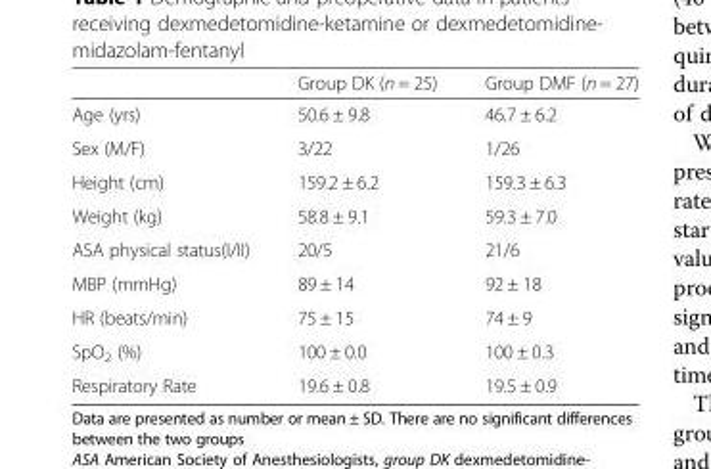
<table><thead><tr><td></td><td>Group DK (n = 25)</td><td>Group DMF (n = 27)</td></tr></thead><tbody><tr><td>Age (yrs)</td><td>50.6 ± 9.8</td><td>46.7 ± 6.2</td></tr><tr><td>Sex (M/F)</td><td>3/22</td><td>1/26</td></tr><tr><td>Height (cm)</td><td>159.2 ± 6.2</td><td>159.3 ± 6.3</td></tr><tr><td>Weight (kg)</td><td>58.8 ± 9.1</td><td>59.3 ± 7.0</td></tr><tr><td>ASA physical status(I/II)</td><td>20/5</td><td>21/6</td></tr><tr><td>MBP (mmHg)</td><td>89 ± 14</td><td>92 ± 18</td></tr><tr><td>HR (beats/min)</td><td>75 ± 15</td><td>74 ± 9</td></tr><tr><td>SpO<sub>2</sub> (%)</td><td>100 ± 0.0</td><td>100 ± 0.3</td></tr><tr><td>Respiratory Rate</td><td>19.6 ± 0.8</td><td>19.5 ± 0.9</td></tr></tbody></table>